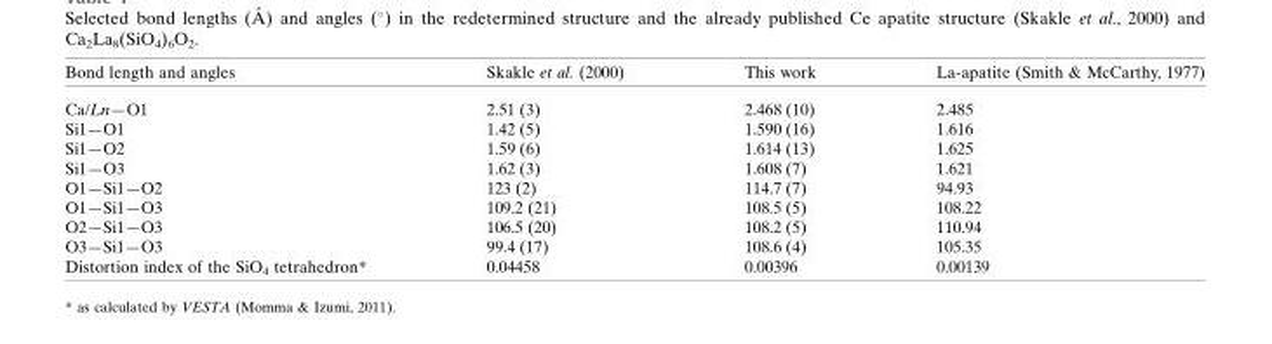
<table><thead><tr><td>Bond length and angles</td><td>Skakle et al. (2000)</td><td>This work</td><td>La-apatite (Smith &amp; McCarthy, 1977)</td></tr></thead><tbody><tr><td>Ca/Ln—O1</td><td>2.51 (3)</td><td>2.468 (10)</td><td>2.485</td></tr><tr><td>Si1—O1</td><td>1.42 (5)</td><td>1.590 (16)</td><td>1.616</td></tr><tr><td>Si1—O2</td><td>1.59 (6)</td><td>1.614 (13)</td><td>1.625</td></tr><tr><td>Si1—O3</td><td>1.62 (3)</td><td>1.608 (7)</td><td>1.621</td></tr><tr><td>O1—Si1—O2</td><td>123 (2)</td><td>114.7 (7)</td><td>94.93</td></tr><tr><td>O1—Si1—O3</td><td>109.2 (21)</td><td>108.5 (5)</td><td>108.22</td></tr><tr><td>O2—Si1—O3</td><td>106.5 (20)</td><td>108.2 (5)</td><td>110.94</td></tr><tr><td>O3—Si1—O3</td><td>99.4 (17)</td><td>108.6 (4)</td><td>105.35</td></tr><tr><td>Distortion index of the SiO<sub>4</sub> tetrahedron*</td><td>0.04458</td><td>0.00396</td><td>0.00139</td></tr></tbody></table>